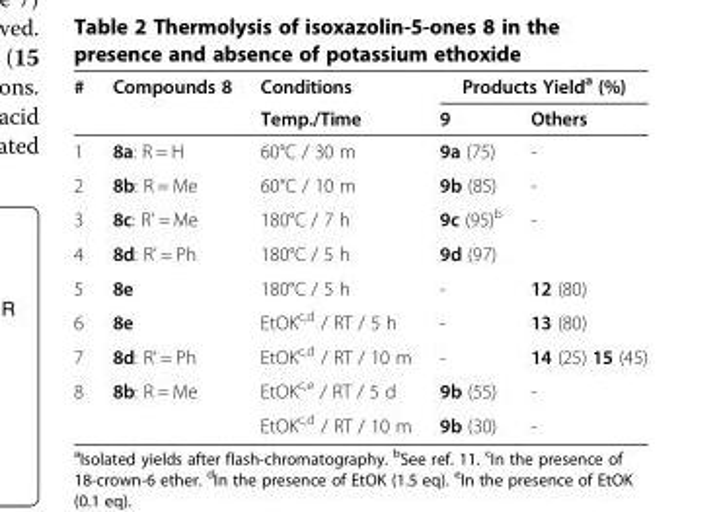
<table><thead><tr><td rowspan="2">#</td><td rowspan="2">Compounds 8</td><td rowspan="2">Conditions Temp./Time</td><td colspan="2">Products Yield<sup>a</sup> (%)</td></tr><tr><td>9</td><td>Others</td></tr></thead><tbody><tr><td>1</td><td>8a: R = H</td><td>60°C / 30 m</td><td>9a (75)</td><td>-</td></tr><tr><td>2</td><td>8b: R = Me</td><td>60°C / 10 m</td><td>9b (85)</td><td>-</td></tr><tr><td>3</td><td>8c: R’ = Me</td><td>180°C / 7 h</td><td>9c (95)<sup>b</sup></td><td>-</td></tr><tr><td>4</td><td>8d: R’ = Ph</td><td>180°C / 5 h</td><td>9d (97)</td><td></td></tr><tr><td>5</td><td>8e</td><td>180°C / 5 h</td><td>-</td><td>12 (80)</td></tr><tr><td>6</td><td>8e</td><td>EtOK<sup>c,d</sup> / RT / 5 h</td><td>-</td><td>13 (80)</td></tr><tr><td>7</td><td>8d: R’ = Ph</td><td>EtOK<sup>c,d</sup> / RT / 10 m</td><td>-</td><td>14 (25) 15 (45)</td></tr><tr><td rowspan="2">8</td><td>8b: R = Me</td><td>EtOK<sup>c,e</sup> / RT / 5 d</td><td>9b (55)</td><td>-</td></tr><tr><td></td><td>EtOK<sup>c,d</sup> / RT / 10 m</td><td>9b (30)</td><td>-</td></tr></tbody></table>